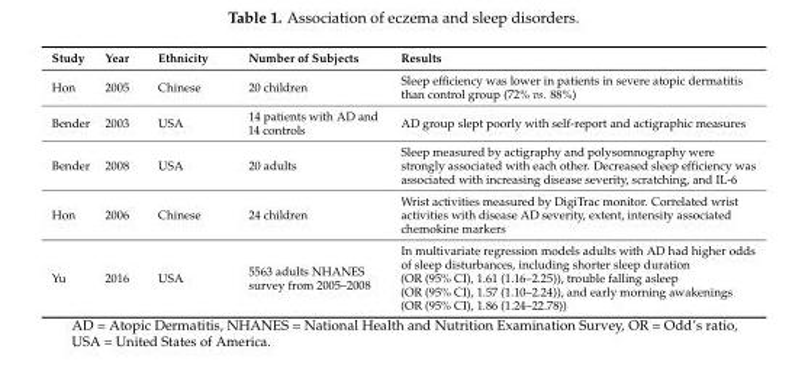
<table><thead><tr><td>Study</td><td>Year</td><td>Ethnicity</td><td>Number of Subjects</td><td>Results</td></tr></thead><tbody><tr><td>Hon</td><td>2005</td><td>Chinese</td><td>20 children</td><td>Sleep efficiency was lower in patients in severe atopic dermatitis than control group (72% vs. 88%)</td></tr><tr><td>Bender</td><td>2003</td><td>USA</td><td>14 patients with AD and 14 controls</td><td>AD group slept poorly with self-report and actigraphic measures</td></tr><tr><td>Bender</td><td>2008</td><td>USA</td><td>20 adults</td><td>Sleep measured by actigraphy and polysomnography were strongly associated with each other. Decreased sleep efficiency was associated with increasing disease severity, scratching, and IL-6</td></tr><tr><td>Hon</td><td>2006</td><td>Chinese</td><td>24 children</td><td>Wrist activities measured by DigiTrac monitor. Correlated wrist activities with disease AD severity, extent, intensity associated chemokine markers</td></tr><tr><td>Yu</td><td>2016</td><td>USA</td><td>5563 adults NHANES survey from 2005–2008</td><td>In multivariate regression models adults with AD had higher odds of sleep disturbances, including shorter sleep duration (OR (95% CI), 1.61 (1.16–2.25)), trouble falling asleep (OR (95% CI), 1.57 (1.10–2.24)), and early morning awakenings (OR (95% CI), 1.86 (1.24–22.78))</td></tr></tbody></table>